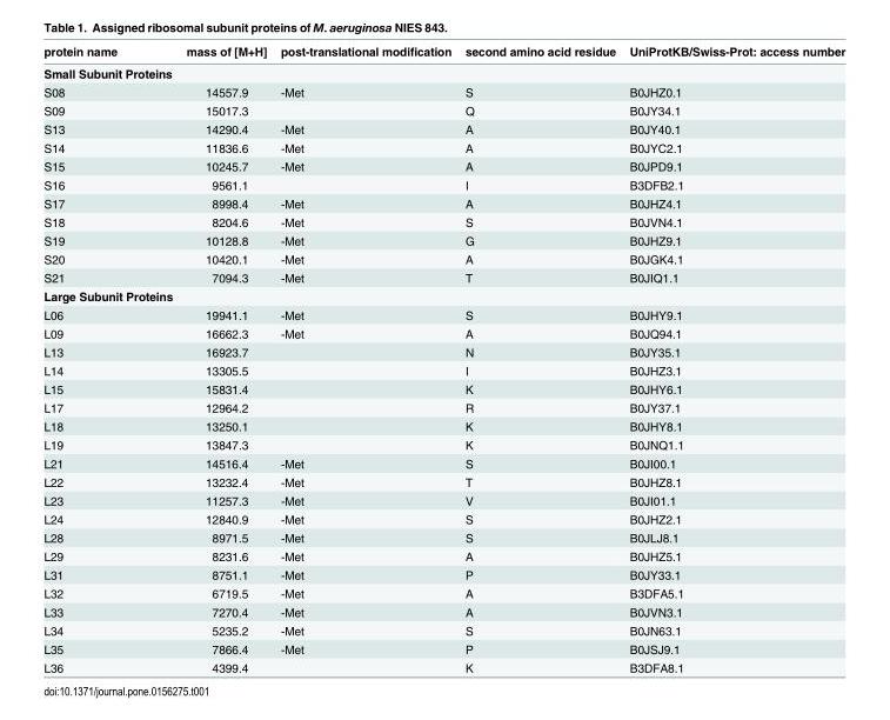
<table><thead><tr><td>protein name</td><td>mass of [M+H]</td><td>post-translational modification</td><td>second amino acid residue</td><td>UniProtKB/Swiss-Prot: access number</td></tr></thead><tbody><tr><td colspan="5">Small Subunit Proteins</td></tr><tr><td>S08</td><td>14557.9</td><td>-Met</td><td>S</td><td>B0JHZ0.1</td></tr><tr><td>S09</td><td>15017.3</td><td></td><td>Q</td><td>B0JY34.1</td></tr><tr><td>S13</td><td>14290.4</td><td>-Met</td><td>A</td><td>B0JY40.1</td></tr><tr><td>S14</td><td>11836.6</td><td>-Met</td><td>A</td><td>B0JYC2.1</td></tr><tr><td>S15</td><td>10245.7</td><td>-Met</td><td>A</td><td>B0JPD9.1</td></tr><tr><td>S16</td><td>9561.1</td><td></td><td>I</td><td>B3DFB2.1</td></tr><tr><td>S17</td><td>8998.4</td><td>-Met</td><td>A</td><td>B0JHZ4.1</td></tr><tr><td>S18</td><td>8204.6</td><td>-Met</td><td>S</td><td>B0JVN4.1</td></tr><tr><td>S19</td><td>10128.8</td><td>-Met</td><td>G</td><td>B0JHZ9.1</td></tr><tr><td>S20</td><td>10420.1</td><td>-Met</td><td>A</td><td>B0JGK4.1</td></tr><tr><td>S21</td><td>7094.3</td><td>-Met</td><td>T</td><td>B0JIQ1.1</td></tr><tr><td colspan="5">Large Subunit Proteins</td></tr><tr><td>L06</td><td>19941.1</td><td>-Met</td><td>S</td><td>B0JHY9.1</td></tr><tr><td>L09</td><td>16662.3</td><td>-Met</td><td>A</td><td>B0JQ94.1</td></tr><tr><td>L13</td><td>16923.7</td><td></td><td>N</td><td>B0JY35.1</td></tr><tr><td>L14</td><td>13305.5</td><td></td><td>I</td><td>B0JHZ3.1</td></tr><tr><td>L15</td><td>15831.4</td><td></td><td>K</td><td>B0JHY6.1</td></tr><tr><td>L17</td><td>12964.2</td><td></td><td>R</td><td>B0JY37.1</td></tr><tr><td>L18</td><td>13250.1</td><td></td><td>K</td><td>B0JHY8.1</td></tr><tr><td>L19</td><td>13847.3</td><td></td><td>K</td><td>B0JNQ1.1</td></tr><tr><td>L21</td><td>14516.4</td><td>-Met</td><td>S</td><td>B0JI00.1</td></tr><tr><td>L22</td><td>13232.4</td><td>-Met</td><td>T</td><td>B0JHZ8.1</td></tr><tr><td>L23</td><td>11257.3</td><td>-Met</td><td>V</td><td>B0JI01.1</td></tr><tr><td>L24</td><td>12840.9</td><td>-Met</td><td>S</td><td>B0JHZ2.1</td></tr><tr><td>L28</td><td>8971.5</td><td>-Met</td><td>S</td><td>B0JLJ8.1</td></tr><tr><td>L29</td><td>8231.6</td><td>-Met</td><td>A</td><td>B0JHZ5.1</td></tr><tr><td>L31</td><td>8751.1</td><td>-Met</td><td>P</td><td>B0JY33.1</td></tr><tr><td>L32</td><td>6719.5</td><td>-Met</td><td>A</td><td>B3DFA5.1</td></tr><tr><td>L33</td><td>7270.4</td><td>-Met</td><td>A</td><td>B0JVN3.1</td></tr><tr><td>L34</td><td>5235.2</td><td>-Met</td><td>S</td><td>B0JN63.1</td></tr><tr><td>L35</td><td>7866.4</td><td>-Met</td><td>P</td><td>B0JSJ9.1</td></tr><tr><td>L36</td><td>4399.4</td><td></td><td>K</td><td>B3DFA8.1</td></tr></tbody></table>